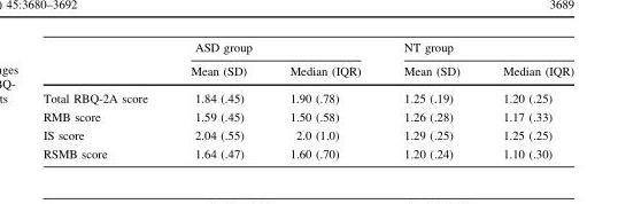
<table><thead><tr><td rowspan="2"></td><td colspan="2">ASD group</td><td colspan="2">NT group</td></tr><tr><td>Mean (SD)</td><td>Median (IQR)</td><td>Mean (SD)</td><td>Median (IQR)</td></tr></thead><tbody><tr><td>Total RBQ-2A score</td><td>1.84 (.45)</td><td>1.90 (.78)</td><td>1.25 (.19)</td><td>1.20 (.25)</td></tr><tr><td>RMB score</td><td>1.59 (.45)</td><td>1.50 (.58)</td><td>1.26 (.28)</td><td>1.17 (.33)</td></tr><tr><td>IS score</td><td>2.04 (.55)</td><td>2.0 (1.0)</td><td>1.29 (.25)</td><td>1.25 (.25)</td></tr><tr><td>RSMB score</td><td>1.64 (.47)</td><td>1.60 (.70)</td><td>1.20 (.24)</td><td>1.10 (.30)</td></tr></tbody></table>